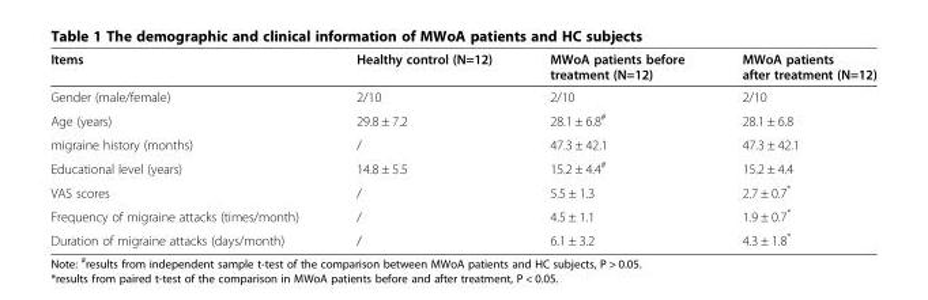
<table><thead><tr><td>Items</td><td>Healthy control (N=12)</td><td>MWoA patients before treatment (N=12)</td><td>MWoA patients after treatment (N=12)</td></tr></thead><tbody><tr><td>Gender (male/female)</td><td>2/10</td><td>2/10</td><td>2/10</td></tr><tr><td>Age (years)</td><td>29.8 ± 7.2</td><td>28.1 ± 6.8<sup>#</sup></td><td>28.1 ± 6.8</td></tr><tr><td>migraine history (months)</td><td>/</td><td>47.3 ± 42.1</td><td>47.3 ± 42.1</td></tr><tr><td>Educational level (years)</td><td>14.8 ± 5.5</td><td>15.2 ± 4.4<sup>#</sup></td><td>15.2 ± 4.4</td></tr><tr><td>VAS scores</td><td>/</td><td>5.5 ± 1.3</td><td>2.7 ± 0.7*</td></tr><tr><td>Frequency of migraine attacks (times/month)</td><td>/</td><td>4.5 ± 1.1</td><td>1.9 ± 0.7*</td></tr><tr><td>Duration of migraine attacks (days/month)</td><td>/</td><td>6.1 ± 3.2</td><td>4.3 ± 1.8*</td></tr></tbody></table>